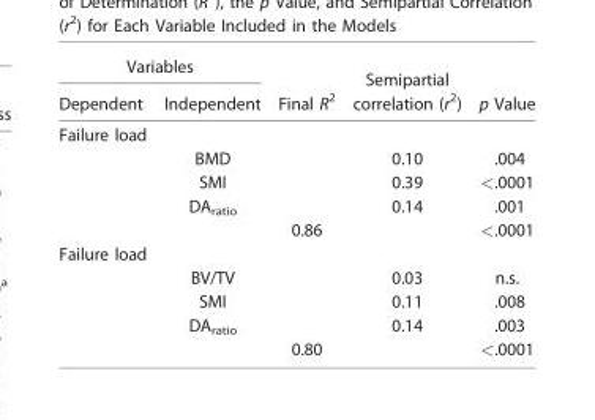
<table><thead><tr><td colspan="2">Variables</td><td rowspan="2">Final R<sup>2</sup></td><td rowspan="2">Semipartial correlation (r<sup>2</sup>)</td><td rowspan="2">p Value</td></tr><tr><td>Dependent</td><td>Independent</td></tr></thead><tbody><tr><td colspan="5">Failure load</td></tr><tr><td></td><td>BMD</td><td></td><td>0.10</td><td>.004</td></tr><tr><td></td><td>SMI</td><td></td><td>0.39</td><td>&lt;.0001</td></tr><tr><td></td><td>DA<sub>ratio</sub></td><td></td><td>0.14</td><td>.001</td></tr><tr><td></td><td></td><td>0.86</td><td></td><td>&lt;.0001</td></tr><tr><td colspan="5">Failure load</td></tr><tr><td></td><td>BV/TV</td><td></td><td>0.03</td><td>n.s.</td></tr><tr><td></td><td>SMI</td><td></td><td>0.11</td><td>.008</td></tr><tr><td></td><td>DA<sub>ratio</sub></td><td></td><td>0.14</td><td>.003</td></tr><tr><td></td><td></td><td>0.80</td><td></td><td>&lt;.0001</td></tr></tbody></table>